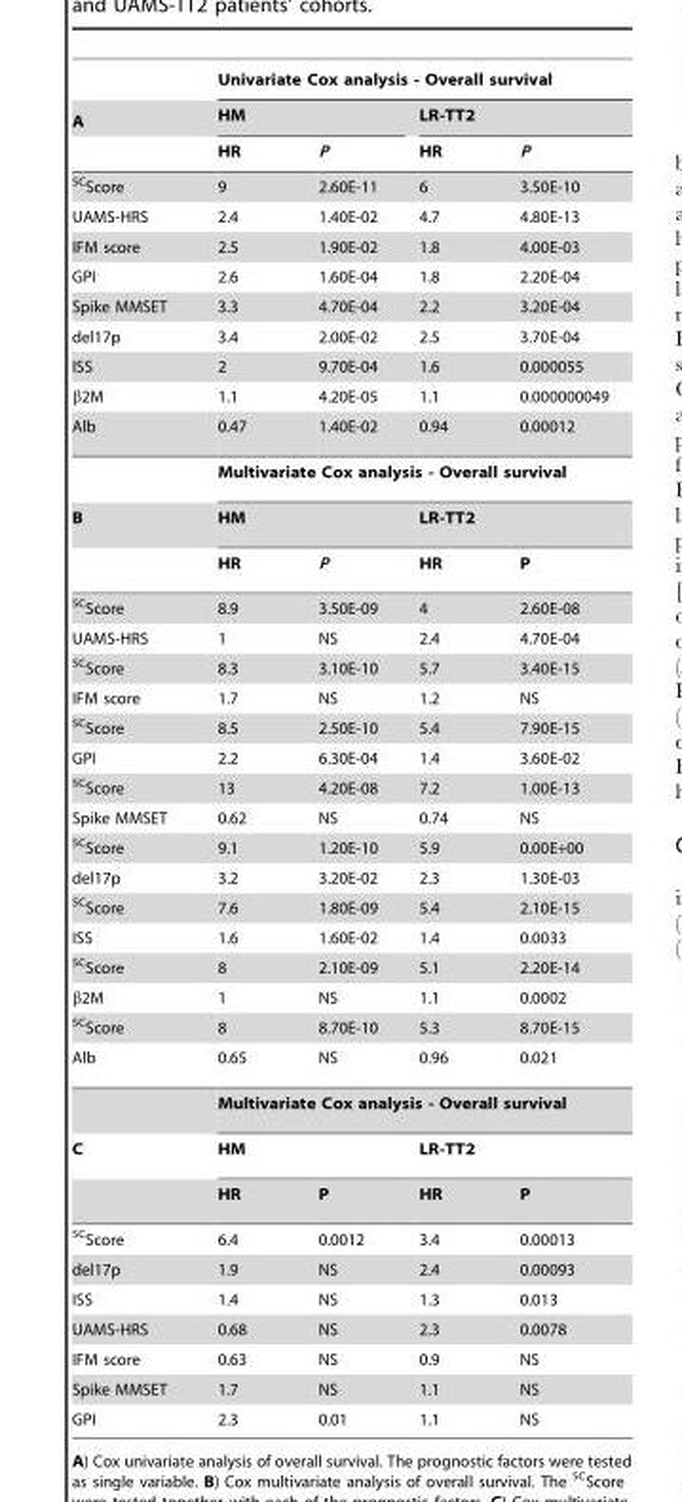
<table><thead><tr><td rowspan="3">A</td><td colspan="4">Univariate Cox analysis - Overall survival</td></tr><tr><td colspan="2">HM</td><td colspan="2">LR-TT2</td></tr><tr><td>HR</td><td>P</td><td>HR</td><td>P</td></tr></thead><tbody><tr><td><sup>SC</sup>Score</td><td>9</td><td>2.60E-11</td><td>6</td><td>3.50E-10</td></tr><tr><td>UAMS-HRS</td><td>2.4</td><td>1.40E-02</td><td>4.7</td><td>4.80E-13</td></tr><tr><td>IFM score</td><td>2.5</td><td>1.90E-02</td><td>1.8</td><td>4.00E-03</td></tr><tr><td>GPI</td><td>2.6</td><td>1.60E-04</td><td>1.8</td><td>2.20E-04</td></tr><tr><td>Spike MMSET</td><td>3.3</td><td>4.70E-04</td><td>2.2</td><td>3.20E-04</td></tr><tr><td>del17p</td><td>3.4</td><td>2.00E-02</td><td>2.5</td><td>3.70E-04</td></tr><tr><td>ISS</td><td>2</td><td>9.70E-04</td><td>1.6</td><td>0.000055</td></tr><tr><td>β2M</td><td>1.1</td><td>4.20E-05</td><td>1.1</td><td>0.000000049</td></tr><tr><td rowspan="2">Alb</td><td>0.47</td><td>1.40E-02</td><td>0.94</td><td>0.00012</td></tr><tr><td colspan="4">Multivariate Cox analysis - Overall survival</td></tr><tr><td rowspan="2">B</td><td colspan="2">HM</td><td colspan="2">LR-TT2</td></tr><tr><td>HR</td><td>P</td><td>HR</td><td>P</td></tr><tr><td><sup>SC</sup>Score</td><td>8.9</td><td>3.50E-09</td><td>4</td><td>2.60E-08</td></tr><tr><td>UAMS-HRS</td><td>1</td><td>NS</td><td>2.4</td><td>4.70E-04</td></tr><tr><td><sup>SC</sup>Score</td><td>8.3</td><td>3.10E-10</td><td>5.7</td><td>3.40E-15</td></tr><tr><td>IFM score</td><td>1.7</td><td>NS</td><td>1.2</td><td>NS</td></tr><tr><td><sup>SC</sup>Score</td><td>8.5</td><td>2.50E-10</td><td>5.4</td><td>7.90E-15</td></tr><tr><td>GPI</td><td>2.2</td><td>6.30E-04</td><td>1.4</td><td>3.60E-02</td></tr><tr><td><sup>SC</sup>Score</td><td>13</td><td>4.20E-08</td><td>7.2</td><td>1.00E-13</td></tr><tr><td>Spike MMSET</td><td>0.62</td><td>NS</td><td>0.74</td><td>NS</td></tr><tr><td><sup>SC</sup>Score</td><td>9.1</td><td>1.20E-10</td><td>5.9</td><td>0.00E+00</td></tr><tr><td>del17p</td><td>3.2</td><td>3.20E-02</td><td>2.3</td><td>1.30E-03</td></tr><tr><td><sup>SC</sup>Score</td><td>7.6</td><td>1.80E-09</td><td>5.4</td><td>2.10E-15</td></tr><tr><td>ISS</td><td>1.6</td><td>1.60E-02</td><td>1.4</td><td>0.0033</td></tr><tr><td><sup>SC</sup>Score</td><td>8</td><td>2.10E-09</td><td>5.1</td><td>2.20E-14</td></tr><tr><td>β2M</td><td>1</td><td>NS</td><td>1.1</td><td>0.0002</td></tr><tr><td><sup>SC</sup>Score</td><td>8</td><td>8.70E-10</td><td>5.3</td><td>8.70E-15</td></tr><tr><td rowspan="2">Alb</td><td>0.65</td><td>NS</td><td>0.96</td><td>0.021</td></tr><tr><td colspan="4">Multivariate Cox analysis - Overall survival</td></tr><tr><td rowspan="2">C</td><td colspan="2">HM</td><td colspan="2">LR-TT2</td></tr><tr><td>HR</td><td>P</td><td>HR</td><td>P</td></tr><tr><td><sup>SC</sup>Score</td><td>6.4</td><td>0.0012</td><td>3.4</td><td>0.00013</td></tr><tr><td>del17p</td><td>1.9</td><td>NS</td><td>2.4</td><td>0.00093</td></tr><tr><td>ISS</td><td>1.4</td><td>NS</td><td>1.3</td><td>0.013</td></tr><tr><td>UAMS-HRS</td><td>0.68</td><td>NS</td><td>2.3</td><td>0.0078</td></tr><tr><td>IFM score</td><td>0.63</td><td>NS</td><td>0.9</td><td>NS</td></tr><tr><td>Spike MMSET</td><td>1.7</td><td>NS</td><td>1.1</td><td>NS</td></tr><tr><td>GPI</td><td>2.3</td><td>0.01</td><td>1.1</td><td>NS</td></tr></tbody></table>